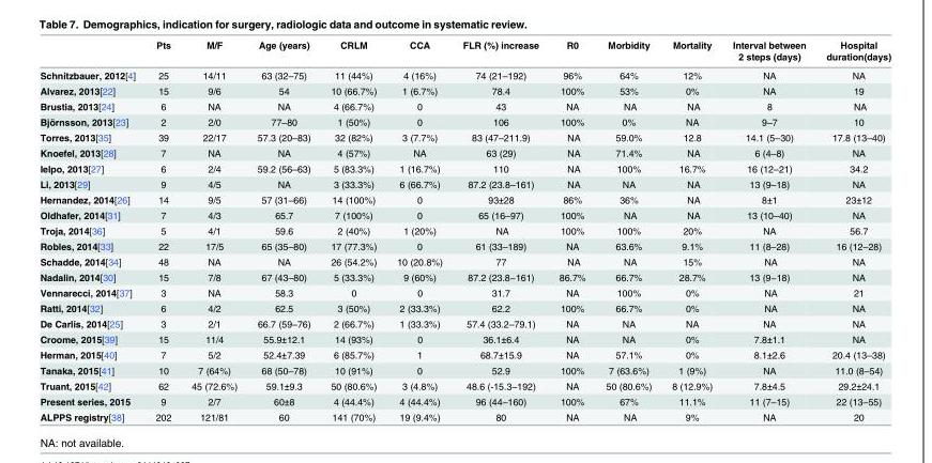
<table><thead><tr><td></td><td>Pts</td><td>M/F</td><td>Age (years)</td><td>CRLM</td><td>CCA</td><td>FLR (%) increase</td><td>R0</td><td>Morbidity</td><td>Mortality</td><td>Interval between 2 steps (days)</td><td>Hospital duration(days)</td></tr></thead><tbody><tr><td>Schnitzbauer, 2012[4]</td><td>25</td><td>14/11</td><td>63 (32–75)</td><td>11 (44%)</td><td>4 (16%)</td><td>74 (21–192)</td><td>96%</td><td>64%</td><td>12%</td><td>NA</td><td>NA</td></tr><tr><td>Alvarez, 2013[22]</td><td>15</td><td>9/6</td><td>54</td><td>10 (66.7%)</td><td>1 (6.7%)</td><td>78.4</td><td>100%</td><td>53%</td><td>0%</td><td>NA</td><td>19</td></tr><tr><td>Brustia, 2013[24]</td><td>6</td><td>NA</td><td>NA</td><td>4 (66.7%)</td><td>0</td><td>43</td><td>NA</td><td>NA</td><td>NA</td><td>8</td><td>NA</td></tr><tr><td>Björnsson, 2013[23]</td><td>2</td><td>2/0</td><td>77–80</td><td>1 (50%)</td><td>0</td><td>106</td><td>100%</td><td>0%</td><td>NA</td><td>9–7</td><td>10</td></tr><tr><td>Torres, 2013[35]</td><td>39</td><td>22/17</td><td>57.3 (20–83)</td><td>32 (82%)</td><td>3 (7.7%)</td><td>83 (47–211.9)</td><td>NA</td><td>59.0%</td><td>12.8</td><td>14.1 (5–30)</td><td>17.8 (13–40)</td></tr><tr><td>Knoefel, 2013[28]</td><td>7</td><td>NA</td><td>NA</td><td>4 (57%)</td><td>NA</td><td>63 (29)</td><td>NA</td><td>71.4%</td><td>NA</td><td>6 (4–8)</td><td>NA</td></tr><tr><td>Ielpo, 2013[27]</td><td>6</td><td>2/4</td><td>59.2 (56–63)</td><td>5 (83.3%)</td><td>1 (16.7%)</td><td>110</td><td>NA</td><td>100%</td><td>16.7%</td><td>16 (12–21)</td><td>34.2</td></tr><tr><td>Li, 2013[29]</td><td>9</td><td>4/5</td><td>NA</td><td>3 (33.3%)</td><td>6 (66.7%)</td><td>87.2 (23.8–161)</td><td>NA</td><td>NA</td><td>NA</td><td>13 (9–18)</td><td>NA</td></tr><tr><td>Hernandez, 2014[26]</td><td>14</td><td>9/5</td><td>57 (31–66)</td><td>14 (100%)</td><td>0</td><td>93±28</td><td>86%</td><td>36%</td><td>NA</td><td>8±1</td><td>23±12</td></tr><tr><td>Oldhafer, 2014[31]</td><td>7</td><td>4/3</td><td>65.7</td><td>7 (100%)</td><td>0</td><td>65 (16–97)</td><td>100%</td><td>NA</td><td>NA</td><td>13 (10–40)</td><td>NA</td></tr><tr><td>Troja, 2014[36]</td><td>5</td><td>4/1</td><td>59.6</td><td>2 (40%)</td><td>1 (20%)</td><td>NA</td><td>100%</td><td>100%</td><td>20%</td><td>NA</td><td>56.7</td></tr><tr><td>Robles, 2014[33]</td><td>22</td><td>17/5</td><td>65 (35–80)</td><td>17 (77.3%)</td><td>0</td><td>61 (33–189)</td><td>NA</td><td>63.6%</td><td>9.1%</td><td>11 (8–28)</td><td>16 (12–28)</td></tr><tr><td>Schadde, 2014[34]</td><td>48</td><td>NA</td><td>NA</td><td>26 (54.2%)</td><td>10 (20.8%)</td><td>77</td><td>NA</td><td>NA</td><td>15%</td><td>NA</td><td>NA</td></tr><tr><td>Nadalin, 2014[30]</td><td>15</td><td>7/8</td><td>67 (43–80)</td><td>5 (33.3%)</td><td>9 (60%)</td><td>87.2 (23.8−161)</td><td>86.7%</td><td>66.7%</td><td>28.7%</td><td>13 (9−18)</td><td>NA</td></tr><tr><td>Vennarecci, 2014[37]</td><td>3</td><td>NA</td><td>58.3</td><td>0</td><td>0</td><td>31.7</td><td>NA</td><td>100%</td><td>0%</td><td>NA</td><td>21</td></tr><tr><td>Ratti, 2014[32]</td><td>6</td><td>4/2</td><td>62.5</td><td>3 (50%)</td><td>2 (33.3%)</td><td>62.2</td><td>100%</td><td>66.7%</td><td>0%</td><td>NA</td><td>NA</td></tr><tr><td>De Carlis, 2014[25]</td><td>3</td><td>2/1</td><td>66.7 (59–76)</td><td>2 (66.7%)</td><td>1 (33.3%)</td><td>57.4 (33.2–79.1)</td><td>NA</td><td>NA</td><td>NA</td><td>NA</td><td>NA</td></tr><tr><td>Croome, 2015[39]</td><td>15</td><td>11/4</td><td>55.9±12.1</td><td>14 (93%)</td><td>0</td><td>36.1±6.4</td><td>NA</td><td>NA</td><td>0%</td><td>7.8±1.1</td><td>NA</td></tr><tr><td>Herman, 2015[40]</td><td>7</td><td>5/2</td><td>52.4±7.39</td><td>6 (85.7%)</td><td>1</td><td>68.7±15.9</td><td>NA</td><td>57.1%</td><td>0%</td><td>8.1±2.6</td><td>20.4 (13–38)</td></tr><tr><td>Tanaka, 2015[41]</td><td>10</td><td>7 (64%)</td><td>68 (50–78)</td><td>10 (91%)</td><td>0</td><td>52.9</td><td>100%</td><td>7 (63.6%)</td><td>1 (9%)</td><td>NA</td><td>11.0 (8–54)</td></tr><tr><td>Truant, 2015[42]</td><td>62</td><td>45 (72.6%)</td><td>59.1±9.3</td><td>50 (80.6%)</td><td>3 (4.8%)</td><td>48.6 (-15.3–192)</td><td>NA</td><td>50 (80.6%)</td><td>8 (12.9%)</td><td>7.8±4.5</td><td>29.2±24.1</td></tr><tr><td>Present series, 2015</td><td>9</td><td>2/7</td><td>60±8</td><td>4 (44.4%)</td><td>4 (44.4%)</td><td>96 (44–160)</td><td>100%</td><td>67%</td><td>11.1%</td><td>11 (7–15)</td><td>22 (13–55)</td></tr><tr><td>ALPPS registry[38]</td><td>202</td><td>121/81</td><td>60</td><td>141 (70%)</td><td>19 (9.4%)</td><td>80</td><td>NA</td><td>NA</td><td>9%</td><td>NA</td><td>20</td></tr></tbody></table>